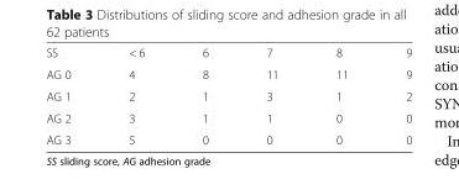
<table><tbody><tr><td>SS</td><td>&lt; 6</td><td>6</td><td>7</td><td>8</td><td>9</td></tr><tr><td>AG 0</td><td>4</td><td>8</td><td>11</td><td>11</td><td>9</td></tr><tr><td>AG 1</td><td>2</td><td>1</td><td>3</td><td>1</td><td>2</td></tr><tr><td>AG 2</td><td>3</td><td>1</td><td>1</td><td>0</td><td>0</td></tr><tr><td>AG 3</td><td>5</td><td>0</td><td>0</td><td>0</td><td>0</td></tr></tbody></table>